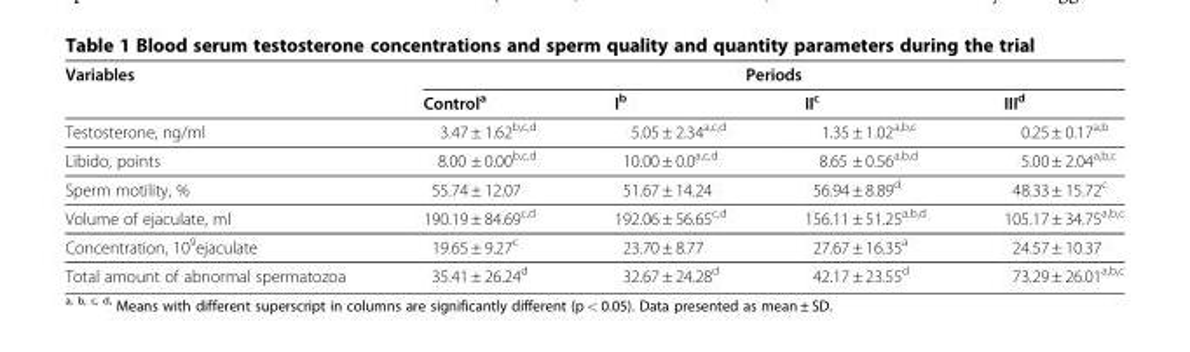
<table><thead><tr><td rowspan="2">Variables</td><td colspan="4">Periods</td></tr><tr><td>Control<sup>a</sup></td><td>I<sup>b</sup></td><td>II<sup>c</sup></td><td>III<sup>d</sup></td></tr></thead><tbody><tr><td>Testosterone, ng/ml</td><td>3.47 ± 1.62<sup>b,c,d</sup></td><td>5.05 ± 2.34<sup>a,c,d</sup></td><td>1.35 ± 1.02<sup>a,b,c</sup></td><td>0.25 ± 0.17<sup>a,b</sup></td></tr><tr><td>Libido, points</td><td>8.00 ± 0.00<sup>b,c,d</sup></td><td>10.00 ± 0.0<sup>a,c,d</sup></td><td>8.65 ± 0.56<sup>a,b,d</sup></td><td>5.00 ± 2.04<sup>a,b,c</sup></td></tr><tr><td>Sperm motility, %</td><td>55.74 ± 12.07</td><td>51.67 ± 14.24</td><td>56.94 ± 8.89<sup>d</sup></td><td>48.33 ± 15.72<sup>c</sup></td></tr><tr><td>Volume of ejaculate, ml</td><td>190.19 ± 84.69<sup>c,d</sup></td><td>192.06 ± 56.65<sup>c,d</sup></td><td>156.11 ± 51.25<sup>a,b,d</sup></td><td>105.17 ± 34.75<sup>a,b,c</sup></td></tr><tr><td>Concentration, 10<sup>9</sup>ejaculate</td><td>19.65 ± 9.27<sup>c</sup></td><td>23.70 ± 8.77</td><td>27.67 ± 16.35<sup>a</sup></td><td>24.57 ± 10.37</td></tr><tr><td>Total amount of abnormal spermatozoa</td><td>35.41 ± 26.24<sup>d</sup></td><td>32.67 ± 24.28<sup>d</sup></td><td>42.17 ± 23.55<sup>d</sup></td><td>73.29 ± 26.01<sup>a,b,c</sup></td></tr></tbody></table>